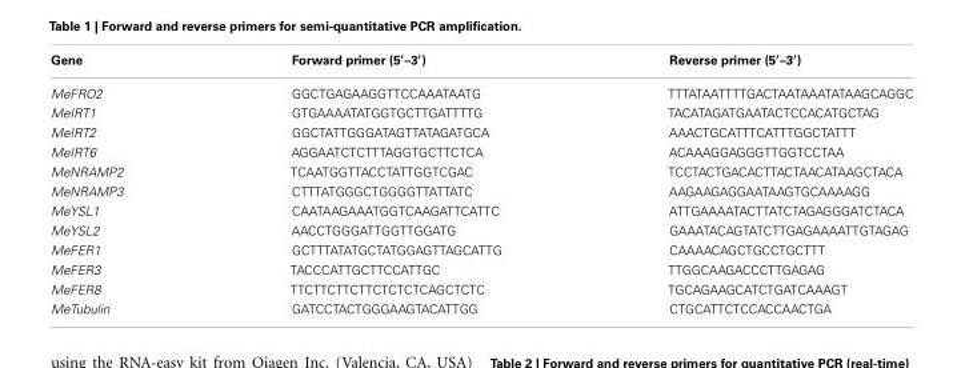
<table><thead><tr><td>Gene</td><td>Forward primer (5′–3′)</td><td>Reverse primer (5′–3′)</td></tr></thead><tbody><tr><td>MeFRO2</td><td>GGCTGAGAAGGTTCCAAATAATG</td><td>TTTATAATTTTGACTAATAAATATAAGCAGGC</td></tr><tr><td>MeIRT1</td><td>GTGAAAATATGGTGCTTGATTTTG</td><td>TACATAGATGAATACTCCACATGCTAG</td></tr><tr><td>MeIRT2</td><td>GGCTATTGGGATAGTTATAGATGCA</td><td>AAACTGCATTTCATTTGGCTATTT</td></tr><tr><td>MeIRT6</td><td>AGGAATCTCTTTAGGTGCTTCTCA</td><td>ACAAAGGAGGGTTGGTCCTAA</td></tr><tr><td>MeNRAMP2</td><td>TCAATGGTTACCTATTGGTCGAC</td><td>TCCTACTGACACTTACTAACATAAGCTACA</td></tr><tr><td>MeNRAMP3</td><td>CTTTATGGGCTGGGGTTATTATC</td><td>AAGAAGAGGAATAAGTGCAAAAGG</td></tr><tr><td>MeYSL1</td><td>CAATAAGAAATGGTCAAGATTCATTC</td><td>ATTGAAAATACTTATCTAGAGGGATCTACA</td></tr><tr><td>MeYSL2</td><td>AACCTGGGATTGGTTGGATG</td><td>GAAATACAGTATCTTGAGAAAATTGTAGAG</td></tr><tr><td>MeFER1</td><td>GCTTTATATGCTATGGAGTTAGCATTG</td><td>CAAAACAGCTGCCTGCTTT</td></tr><tr><td>MeFER3</td><td>TACCCATTGCTTCCATTGC</td><td>TTGGCAAGACCCTTGAGAG</td></tr><tr><td>MeFER8</td><td>TTCTTCTTCTTCTCTCTCAGCTCTC</td><td>TGCAGAAGCATCTGATCAAAGT</td></tr><tr><td>MeTubulin</td><td>GATCCTACTGGGAAGTACATTGG</td><td>CTGCATTCTCCACCAACTGA</td></tr></tbody></table>